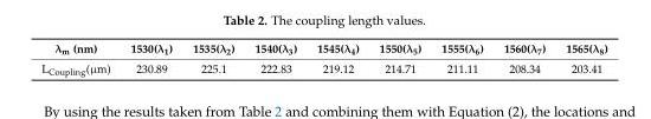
<table><thead><tr><td>λ<sub>m</sub> (nm)</td><td>1530(λ<sub>1</sub>)</td><td>1535(λ<sub>2</sub>)</td><td>1540(λ<sub>3</sub>)</td><td>1545(λ<sub>4</sub>)</td><td>1550(λ<sub>5</sub>)</td><td>1555(λ<sub>6</sub>)</td><td>1560(λ<sub>7</sub>)</td><td>1565(λ<sub>8</sub>)</td></tr></thead><tbody><tr><td>L<sub>Coupling</sub>(µm)</td><td>230.89</td><td>225.1</td><td>222.83</td><td>219.12</td><td>214.71</td><td>211.11</td><td>208.34</td><td>203.41</td></tr></tbody></table>